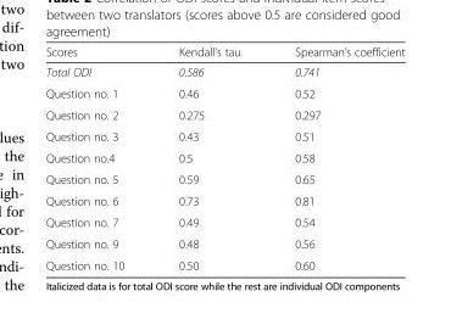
<table><thead><tr><td>Scores</td><td>Kendall’s tau</td><td>Spearman’s coefficient</td></tr></thead><tbody><tr><td>Total ODI</td><td>0.586</td><td>0.741</td></tr><tr><td>Question no. 1</td><td>0.46</td><td>0.52</td></tr><tr><td>Question no. 2</td><td>0.275</td><td>0.297</td></tr><tr><td>Question no. 3</td><td>0.43</td><td>0.51</td></tr><tr><td>Question no.4</td><td>0.5</td><td>0.58</td></tr><tr><td>Question no. 5</td><td>0.59</td><td>0.65</td></tr><tr><td>Question no. 6</td><td>0.73</td><td>0.81</td></tr><tr><td>Question no. 7</td><td>0.49</td><td>0.54</td></tr><tr><td>Question no. 9</td><td>0.48</td><td>0.56</td></tr><tr><td>Question no. 10</td><td>0.50</td><td>0.60</td></tr></tbody></table>